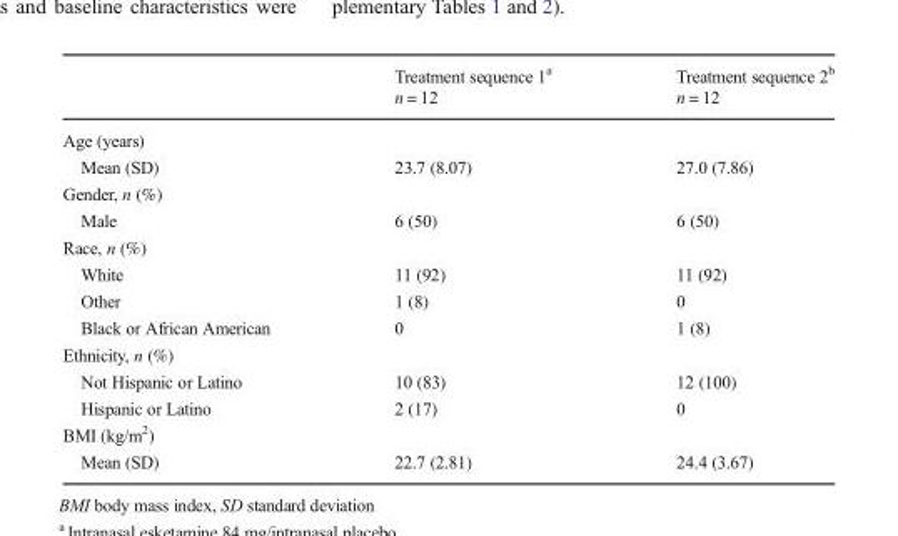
<table><thead><tr><td></td><td>Treatment sequence 1<sup>a</sup> n = 12</td><td>Treatment sequence 2<sup>b</sup> n = 12</td></tr></thead><tbody><tr><td colspan="3">Age (years)</td></tr><tr><td>Mean (SD)</td><td>23.7 (8.07)</td><td>27.0 (7.86)</td></tr><tr><td colspan="3">Gender, n (%)</td></tr><tr><td>Male</td><td>6 (50)</td><td>6 (50)</td></tr><tr><td colspan="3">Race, n (%)</td></tr><tr><td>White</td><td>11 (92)</td><td>11 (92)</td></tr><tr><td>Other</td><td>1 (8)</td><td>0</td></tr><tr><td>Black or African American</td><td>0</td><td>1 (8)</td></tr><tr><td colspan="3">Ethnicity, n (%)</td></tr><tr><td>Not Hispanic or Latino</td><td>10 (83)</td><td>12 (100)</td></tr><tr><td>Hispanic or Latino</td><td>2 (17)</td><td>0</td></tr><tr><td colspan="3">BMI (kg/m<sup>2</sup>)</td></tr><tr><td>Mean (SD)</td><td>22.7 (2.81)</td><td>24.4 (3.67)</td></tr></tbody></table>